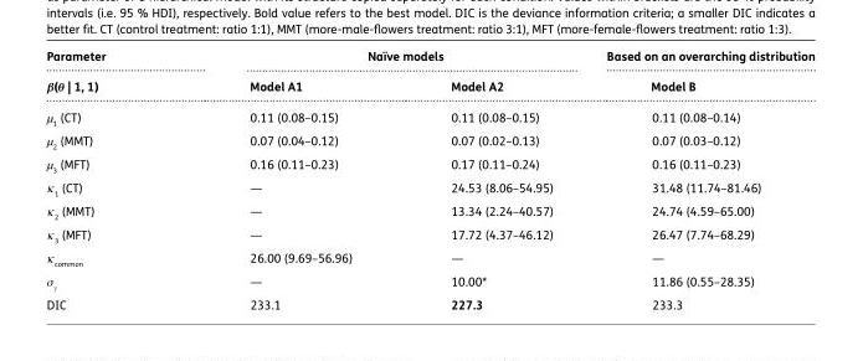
<table><thead><tr><td rowspan="2">Parameter β(θ | 1, 1)</td><td colspan="2">Naïve models</td><td rowspan="2">Based on an overarching distribution Model B</td></tr><tr><td>Model A1</td><td>Model A2</td></tr></thead><tbody><tr><td>μ<sub>1</sub> (CT)</td><td>0.11 (0.08–0.15)</td><td>0.11 (0.08–0.15)</td><td>0.11 (0.08–0.14)</td></tr><tr><td>μ<sub>2</sub> (MMT)</td><td>0.07 (0.04–0.12)</td><td>0.07 (0.02–0.13)</td><td>0.07 (0.03–0.12)</td></tr><tr><td>μ<sub>3</sub> (MFT)</td><td>0.16 (0.11–0.23)</td><td>0.17 (0.11–0.24)</td><td>0.16 (0.11–0.23)</td></tr><tr><td>κ<sub>1</sub> (CT)</td><td>—</td><td>24.53 (8.06–54.95)</td><td>31.48 (11.74–81.46)</td></tr><tr><td>κ<sub>2</sub> (MMT)</td><td>—</td><td>13.34 (2.24–40.57)</td><td>24.74 (4.59–65.00)</td></tr><tr><td>κ<sub>3</sub> (MFT)</td><td>—</td><td>17.72 (4.37–46.12)</td><td>26.47 (7.74–68.29)</td></tr><tr><td>κ<sub>common</sub></td><td>26.00 (9.69–56.96)</td><td>—</td><td>—</td></tr><tr><td>σ<sub>γ</sub></td><td>—</td><td>10.00*</td><td>11.86 (0.55–28.35)</td></tr><tr><td>DIC</td><td>233.1</td><td>227.3</td><td>233.3</td></tr></tbody></table>